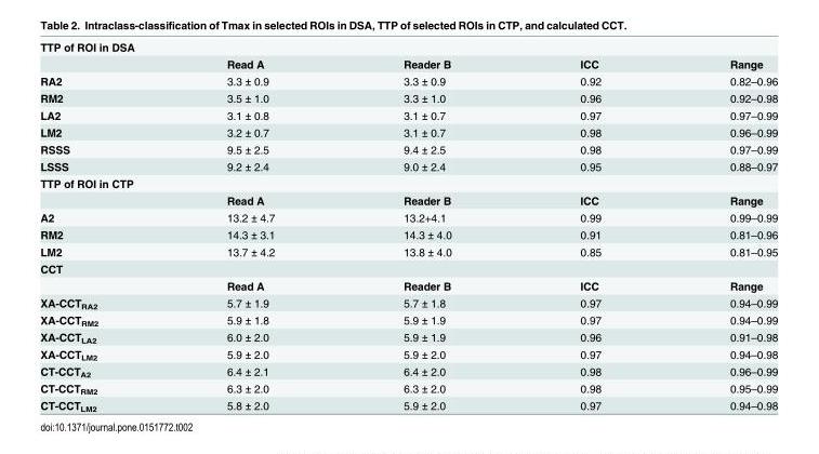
<table><tbody><tr><td colspan="5">TTP of ROI in DSA</td></tr><tr><td></td><td>Read A</td><td>Reader B</td><td>ICC</td><td>Range</td></tr><tr><td>RA2</td><td>3.3 ± 0.9</td><td>3.3 ± 0.9</td><td>0.92</td><td>0.82–0.96</td></tr><tr><td>RM2</td><td>3.5 ± 1.0</td><td>3.3 ± 1.0</td><td>0.96</td><td>0.92–0.98</td></tr><tr><td>LA2</td><td>3.1 ± 0.8</td><td>3.1 ± 0.7</td><td>0.97</td><td>0.97–0.99</td></tr><tr><td>LM2</td><td>3.2 ± 0.7</td><td>3.1 ± 0.7</td><td>0.98</td><td>0.96–0.99</td></tr><tr><td>RSSS</td><td>9.5 ± 2.5</td><td>9.4 ± 2.5</td><td>0.98</td><td>0.97–0.99</td></tr><tr><td>LSSS</td><td>9.2 ± 2.4</td><td>9.0 ± 2.4</td><td>0.95</td><td>0.88–0.97</td></tr><tr><td colspan="5">TTP of ROI in CTP</td></tr><tr><td></td><td>Read A</td><td>Reader B</td><td>ICC</td><td>Range</td></tr><tr><td>A2</td><td>13.2 ± 4.7</td><td>13.2+4.1</td><td>0.99</td><td>0.99–0.99</td></tr><tr><td>RM2</td><td>14.3 ± 3.1</td><td>14.3 ± 4.0</td><td>0.91</td><td>0.81–0.96</td></tr><tr><td>LM2</td><td>13.7 ± 4.2</td><td>13.8 ± 4.0</td><td>0.85</td><td>0.81–0.95</td></tr><tr><td colspan="5">CCT</td></tr><tr><td></td><td>Read A</td><td>Reader B</td><td>ICC</td><td>Range</td></tr><tr><td>XA-CCT<sub>RA2</sub></td><td>5.7 ± 1.9</td><td>5.7 ± 1.8</td><td>0.97</td><td>0.94–0.99</td></tr><tr><td>XA-CCT<sub>RM2</sub></td><td>5.9 ± 1.8</td><td>5.9 ± 1.9</td><td>0.97</td><td>0.94–0.99</td></tr><tr><td>XA-CCT<sub>LA2</sub></td><td>6.0 ± 2.0</td><td>5.9 ± 1.9</td><td>0.96</td><td>0.91–0.98</td></tr><tr><td>XA-CCT<sub>LM2</sub></td><td>5.9 ± 2.0</td><td>5.9 ± 2.0</td><td>0.97</td><td>0.94–0.98</td></tr><tr><td>CT-CCT<sub>A2</sub></td><td>6.4 ± 2.1</td><td>6.4 ± 2.0</td><td>0.98</td><td>0.96–0.99</td></tr><tr><td>CT-CCT<sub>RM2</sub></td><td>6.3 ± 2.0</td><td>6.3 ± 2.0</td><td>0.98</td><td>0.95–0.99</td></tr><tr><td>CT-CCT<sub>LM2</sub></td><td>5.8 ± 2.0</td><td>5.9 ± 2.0</td><td>0.97</td><td>0.94–0.98</td></tr></tbody></table>